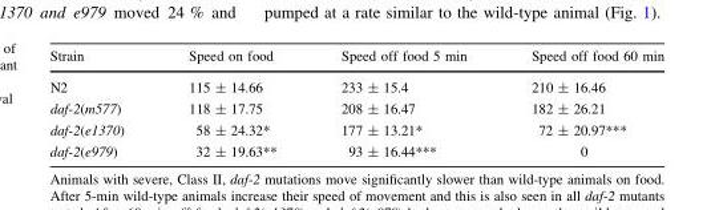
<table><thead><tr><td>Strain</td><td>Speed on food</td><td>Speed off food 5 min</td><td>Speed off food 60 min</td></tr></thead><tbody><tr><td>N2</td><td>115 ± 14.66</td><td>233 ± 15.4</td><td>210 ± 16.46</td></tr><tr><td>daf-2(m577)</td><td>118 ± 17.75</td><td>208 ± 16.47</td><td>182 ± 26.21</td></tr><tr><td>daf-2(e1370)</td><td>58 ± 24.32*</td><td>177 ± 13.21*</td><td>72 ± 20.97***</td></tr><tr><td>daf-2(e979)</td><td>32 ± 19.63**</td><td>93 ± 16.44***</td><td>0</td></tr></tbody></table>